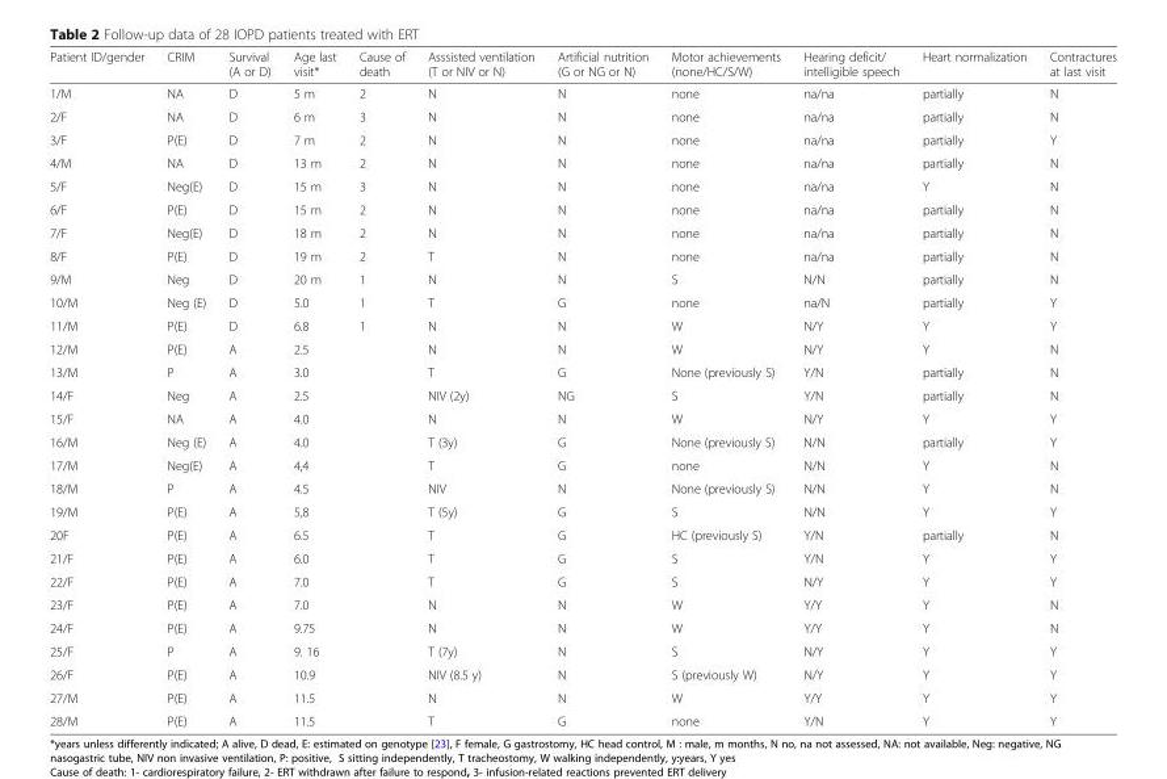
<table><thead><tr><td>Patient ID/gender</td><td>CRIM</td><td>Survival (A or D)</td><td>Age last visit*</td><td>Cause of death</td><td>Asssisted ventilation (T or NIV or N)</td><td>Artificial nutrition (G or NG or N)</td><td>Motor achievements (none/HC/S/W)</td><td>Hearing deficit/ intelligible speech</td><td>Heart normalization</td><td>Contractures at last visit</td></tr></thead><tbody><tr><td>1/M</td><td>NA</td><td>D</td><td>5 m</td><td>2</td><td>N</td><td>N</td><td>none</td><td>na/na</td><td>partially</td><td>N</td></tr><tr><td>2/F</td><td>NA</td><td>D</td><td>6 m</td><td>3</td><td>N</td><td>N</td><td>none</td><td>na/na</td><td>partially</td><td>N</td></tr><tr><td>3/F</td><td>P(E)</td><td>D</td><td>7 m</td><td>2</td><td>N</td><td>N</td><td>none</td><td>na/na</td><td>partially</td><td>Y</td></tr><tr><td>4/M</td><td>NA</td><td>D</td><td>13 m</td><td>2</td><td>N</td><td>N</td><td>none</td><td>na/na</td><td>partially</td><td>N</td></tr><tr><td>5/F</td><td>Neg(E)</td><td>D</td><td>15 m</td><td>3</td><td>N</td><td>N</td><td>none</td><td>na/na</td><td>Y</td><td>N</td></tr><tr><td>6/F</td><td>P(E)</td><td>D</td><td>15 m</td><td>2</td><td>N</td><td>N</td><td>none</td><td>na/na</td><td>partially</td><td>N</td></tr><tr><td>7/F</td><td>Neg(E)</td><td>D</td><td>18 m</td><td>2</td><td>N</td><td>N</td><td>none</td><td>na/na</td><td>partially</td><td>N</td></tr><tr><td>8/F</td><td>P(E)</td><td>D</td><td>19 m</td><td>2</td><td>T</td><td>N</td><td>none</td><td>na/na</td><td>partially</td><td>N</td></tr><tr><td>9/M</td><td>Neg</td><td>D</td><td>20 m</td><td>1</td><td>N</td><td>N</td><td>S</td><td>N/N</td><td>partially</td><td>N</td></tr><tr><td>10/M</td><td>Neg (E)</td><td>D</td><td>5.0</td><td>1</td><td>T</td><td>G</td><td>none</td><td>na/N</td><td>partially</td><td>Y</td></tr><tr><td>11/M</td><td>P(E)</td><td>D</td><td>6.8</td><td>1</td><td>N</td><td>N</td><td>W</td><td>N/Y</td><td>Y</td><td>Y</td></tr><tr><td>12/M</td><td>P(E)</td><td>A</td><td>2.5</td><td></td><td>N</td><td>N</td><td>W</td><td>N/Y</td><td>Y</td><td>N</td></tr><tr><td>13/M</td><td>P</td><td>A</td><td>3.0</td><td></td><td>T</td><td>G</td><td>None (previously S)</td><td>Y/N</td><td>partially</td><td>N</td></tr><tr><td>14/F</td><td>Neg</td><td>A</td><td>2.5</td><td></td><td>NIV (2y)</td><td>NG</td><td>S</td><td>Y/N</td><td>partially</td><td>N</td></tr><tr><td>15/F</td><td>NA</td><td>A</td><td>4.0</td><td></td><td>N</td><td>N</td><td>W</td><td>N/Y</td><td>Y</td><td>Y</td></tr><tr><td>16/M</td><td>Neg (E)</td><td>A</td><td>4.0</td><td></td><td>T (3y)</td><td>G</td><td>None (previously S)</td><td>N/N</td><td>partially</td><td>Y</td></tr><tr><td>17/M</td><td>Neg(E)</td><td>A</td><td>4,4</td><td></td><td>T</td><td>G</td><td>none</td><td>N/N</td><td>Y</td><td>N</td></tr><tr><td>18/M</td><td>P</td><td>A</td><td>4.5</td><td></td><td>NIV</td><td>N</td><td>None (previously S)</td><td>N/N</td><td>Y</td><td>N</td></tr><tr><td>19/M</td><td>P(E)</td><td>A</td><td>5,8</td><td></td><td>T (5y)</td><td>G</td><td>S</td><td>N/N</td><td>Y</td><td>Y</td></tr><tr><td>20F</td><td>P(E)</td><td>A</td><td>6.5</td><td></td><td>T</td><td>G</td><td>HC (previously S)</td><td>Y/N</td><td>partially</td><td>N</td></tr><tr><td>21/F</td><td>P(E)</td><td>A</td><td>6.0</td><td></td><td>T</td><td>G</td><td>S</td><td>Y/N</td><td>Y</td><td>Y</td></tr><tr><td>22/F</td><td>P(E)</td><td>A</td><td>7.0</td><td></td><td>T</td><td>G</td><td>S</td><td>N/Y</td><td>Y</td><td>Y</td></tr><tr><td>23/F</td><td>P(E)</td><td>A</td><td>7.0</td><td></td><td>N</td><td>N</td><td>W</td><td>Y/Y</td><td>Y</td><td>N</td></tr><tr><td>24/F</td><td>P(E)</td><td>A</td><td>9.75</td><td></td><td>N</td><td>N</td><td>W</td><td>Y/Y</td><td>Y</td><td>N</td></tr><tr><td>25/F</td><td>P</td><td>A</td><td>9. 16</td><td></td><td>T (7y)</td><td>N</td><td>S</td><td>N/Y</td><td>Y</td><td>Y</td></tr><tr><td>26/F</td><td>P(E)</td><td>A</td><td>10.9</td><td></td><td>NIV (8.5 y)</td><td>N</td><td>S (previously W)</td><td>N/Y</td><td>Y</td><td>Y</td></tr><tr><td>27/M</td><td>P(E)</td><td>A</td><td>11.5</td><td></td><td>N</td><td>N</td><td>W</td><td>Y/Y</td><td>Y</td><td>Y</td></tr><tr><td>28/M</td><td>P(E)</td><td>A</td><td>11.5</td><td></td><td>T</td><td>G</td><td>none</td><td>Y/N</td><td>Y</td><td>Y</td></tr></tbody></table>